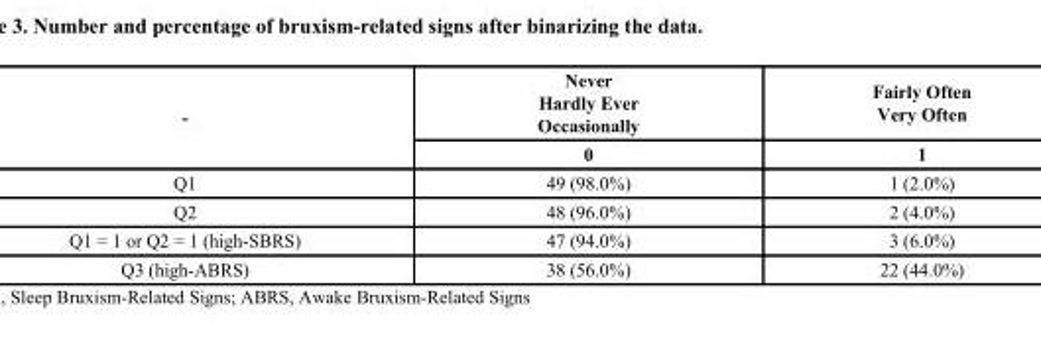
<table><thead><tr><td rowspan="2">-</td><td rowspan="2">Never Hardly Ever Occasionally 0</td><td rowspan="2">Fairly Often Very Often 1</td></tr><tr></tr></thead><tbody><tr><td>Q1</td><td>49 (98.0%)</td><td>1 (2.0%)</td></tr><tr><td>Q2</td><td>48 (96.0%)</td><td>2 (4.0%)</td></tr><tr><td>Q1 = 1 or Q2 = 1 (high-SBRS)</td><td>47 (94.0%)</td><td>3 (6.0%)</td></tr><tr><td>Q3 (high-ABRS)</td><td>38 (56.0%)</td><td>22 (44.0%)</td></tr></tbody></table>